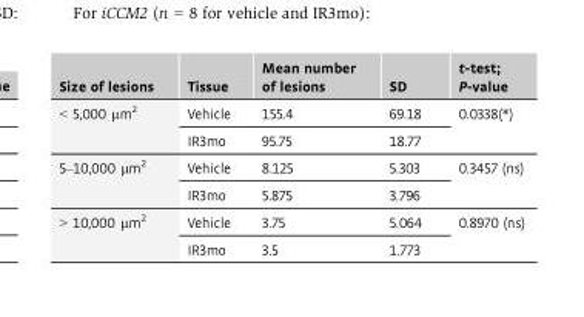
<table><thead><tr><td>Size of lesions</td><td>Tissue</td><td>Mean number of lesions</td><td>SD</td><td>t-test; P-value</td></tr></thead><tbody><tr><td rowspan="2">&lt; 5,000 μm<sup>2</sup></td><td>Vehicle</td><td>155.4</td><td>69.18</td><td rowspan="2">0.0338(*)</td></tr><tr><td>IR3mo</td><td>95.75</td><td>18.77</td></tr><tr><td rowspan="2">5–10,000 μm<sup>2</sup></td><td>Vehicle</td><td>8.125</td><td>5.303</td><td rowspan="2">0.3457 (ns)</td></tr><tr><td>IR3mo</td><td>5.875</td><td>3.796</td></tr><tr><td rowspan="2">&gt; 10,000 μm<sup>2</sup></td><td>Vehicle</td><td>3.75</td><td>5.064</td><td rowspan="2">0.8970 (ns)</td></tr><tr><td>IR3mo</td><td>3.5</td><td>1.773</td></tr></tbody></table>